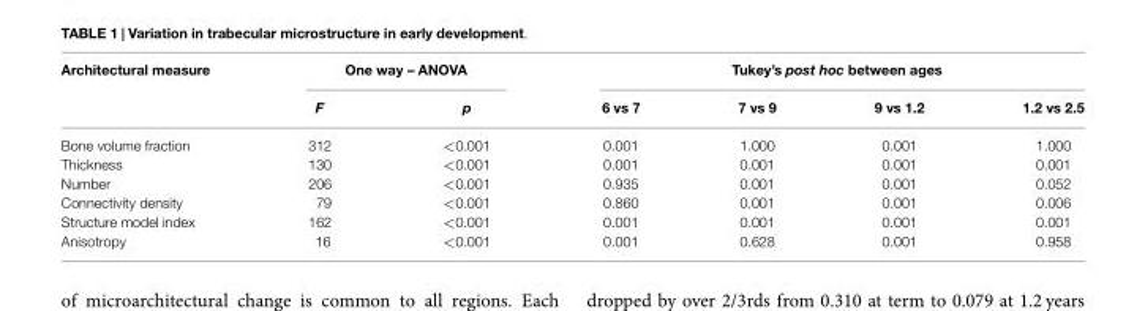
<table><thead><tr><td rowspan="2">Architectural measure</td><td colspan="2">One way – ANOVA</td><td colspan="4">Tukey’s post hoc between ages</td></tr><tr><td>F</td><td>p</td><td>6 vs 7</td><td>7 vs 9</td><td>9 vs 1.2</td><td>1.2 vs 2.5</td></tr></thead><tbody><tr><td>Bone volume fraction</td><td>312</td><td>&lt;0.001</td><td>0.001</td><td>1.000</td><td>0.001</td><td>1.000</td></tr><tr><td>Thickness</td><td>130</td><td>&lt;0.001</td><td>0.001</td><td>0.001</td><td>0.001</td><td>0.001</td></tr><tr><td>Number</td><td>206</td><td>&lt;0.001</td><td>0.935</td><td>0.001</td><td>0.001</td><td>0.052</td></tr><tr><td>Connectivity density</td><td>79</td><td>&lt;0.001</td><td>0.860</td><td>0.001</td><td>0.001</td><td>0.006</td></tr><tr><td>Structure model index</td><td>162</td><td>&lt;0.001</td><td>0.001</td><td>0.001</td><td>0.001</td><td>0.001</td></tr><tr><td>Anisotropy</td><td>16</td><td>&lt;0.001</td><td>0.001</td><td>0.628</td><td>0.001</td><td>0.958</td></tr></tbody></table>